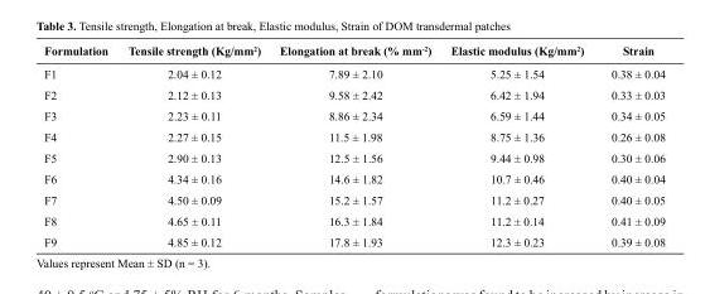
<table><thead><tr><td>Formulation</td><td>Tensile strength (Kg/mm<sup>2</sup>)</td><td>Elongation at break (% mm<sup>-2</sup>)</td><td>Elastic modulus (Kg/mm<sup>2</sup>)</td><td>Strain</td></tr></thead><tbody><tr><td>F1</td><td>2.04 ± 0.12</td><td>7.89 ± 2.10</td><td>5.25 ± 1.54</td><td>0.38 ± 0.04</td></tr><tr><td>F2</td><td>2.12 ± 0.13</td><td>9.58 ± 2.42</td><td>6.42 ± 1.94</td><td>0.33 ± 0.03</td></tr><tr><td>F3</td><td>2.23 ± 0.11</td><td>8.86 ± 2.34</td><td>6.59 ± 1.44</td><td>0.34 ± 0.05</td></tr><tr><td>F4</td><td>2.27 ± 0.15</td><td>11.5 ± 1.98</td><td>8.75 ± 1.36</td><td>0.26 ± 0.08</td></tr><tr><td>F5</td><td>2.90 ± 0.13</td><td>12.5 ± 1.56</td><td>9.44 ± 0.98</td><td>0.30 ± 0.06</td></tr><tr><td>F6</td><td>4.34 ± 0.16</td><td>14.6 ± 1.82</td><td>10.7 ± 0.46</td><td>0.40 ± 0.04</td></tr><tr><td>F7</td><td>4.50 ± 0.09</td><td>15.2 ± 1.57</td><td>11.2 ± 0.27</td><td>0.40 ± 0.05</td></tr><tr><td>F8</td><td>4.65 ± 0.11</td><td>16.3 ± 1.84</td><td>11.2 ± 0.14</td><td>0.41 ± 0.09</td></tr><tr><td>F9</td><td>4.85 ± 0.12</td><td>17.8 ± 1.93</td><td>12.3 ± 0.23</td><td>0.39 ± 0.08</td></tr></tbody></table>